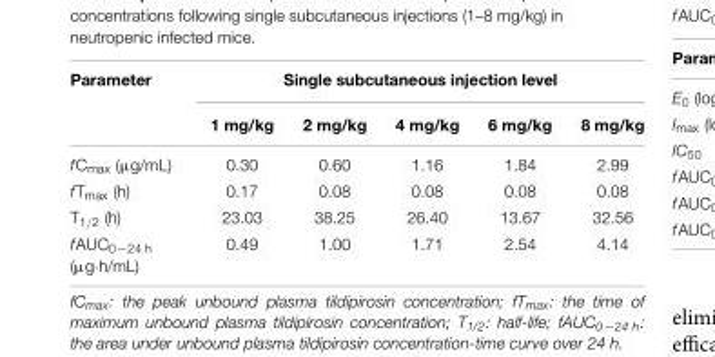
<table><thead><tr><td rowspan="2">Parameter</td><td colspan="5">Single subcutaneous injection level</td></tr><tr><td>1 mg/kg</td><td>2 mg/kg</td><td>4 mg/kg</td><td>6 mg/kg</td><td>8 mg/kg</td></tr></thead><tbody><tr><td>fC<sub>max</sub> (µg/mL)</td><td>0.30</td><td>0.60</td><td>1.16</td><td>1.84</td><td>2.99</td></tr><tr><td>fT<sub>max</sub> (h)</td><td>0.17</td><td>0.08</td><td>0.08</td><td>0.08</td><td>0.08</td></tr><tr><td>T<sub>1/2</sub> (h)</td><td>23.03</td><td>38.25</td><td>26.40</td><td>13.67</td><td>32.56</td></tr><tr><td>fAUC0−24 h (µg·h/mL)</td><td>0.49</td><td>1.00</td><td>1.71</td><td>2.54</td><td>4.14</td></tr></tbody></table>